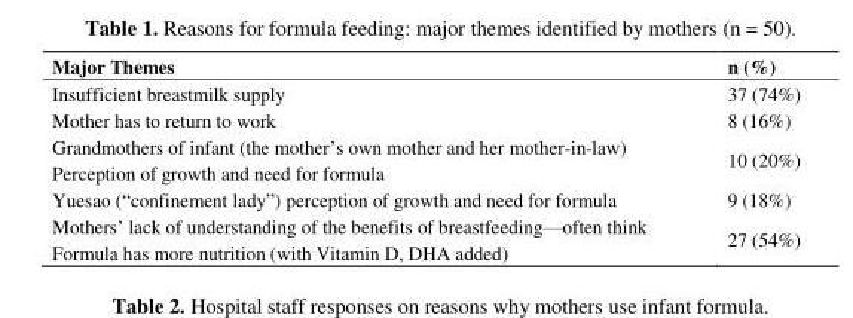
<table><thead><tr><td>Major Themes</td><td>n (%)</td></tr></thead><tbody><tr><td>Insufficient breastmilk supply</td><td>37 (74%)</td></tr><tr><td>Mother has to return to work</td><td>8 (16%)</td></tr><tr><td>Grandmothers of infant (the mother’s own mother and her mother-in-law) Perception of growth and need for formula</td><td>10 (20%)</td></tr><tr><td>Yuesao (―confinement lady‖) perception of growth and need for formula</td><td>9 (18%)</td></tr><tr><td>Mothers’ lack of understanding of the benefits of breastfeeding—often think Formula has more nutrition (with Vitamin D, DHA added)</td><td>27 (54%)</td></tr></tbody></table>